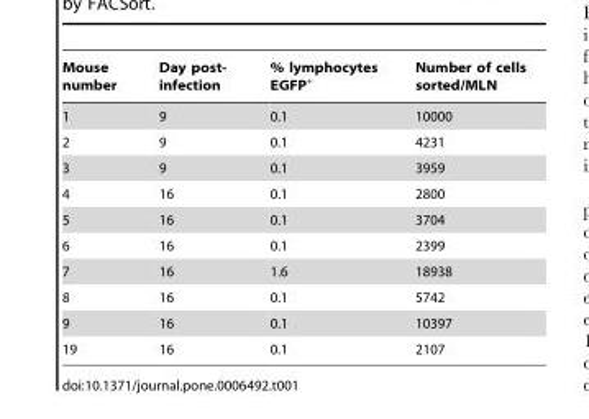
<table><thead><tr><td>Mouse number</td><td>Day post- infection</td><td>% lymphocytes EGFP<sup>+</sup></td><td>Number of cells sorted/MLN</td></tr></thead><tbody><tr><td>1</td><td>9</td><td>0.1</td><td>10000</td></tr><tr><td>2</td><td>9</td><td>0.1</td><td>4231</td></tr><tr><td>3</td><td>9</td><td>0.1</td><td>3959</td></tr><tr><td>4</td><td>16</td><td>0.1</td><td>2800</td></tr><tr><td>5</td><td>16</td><td>0.1</td><td>3704</td></tr><tr><td>6</td><td>16</td><td>0.1</td><td>2399</td></tr><tr><td>7</td><td>16</td><td>1.6</td><td>18938</td></tr><tr><td>8</td><td>16</td><td>0.1</td><td>5742</td></tr><tr><td>9</td><td>16</td><td>0.1</td><td>10397</td></tr><tr><td>19</td><td>16</td><td>0.1</td><td>2107</td></tr></tbody></table>